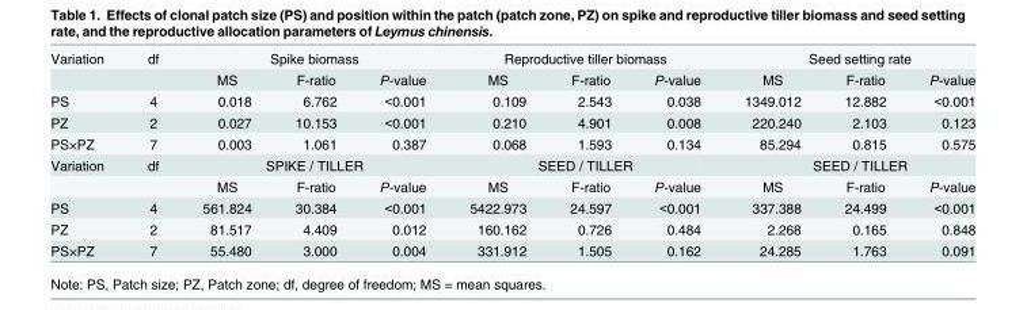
<table><tbody><tr><td rowspan="2">Variation</td><td>df</td><td colspan="3">Spike biomass</td><td colspan="3">Reproductive tiller biomass</td><td colspan="3">Seed setting rate</td></tr><tr><td></td><td>MS</td><td>F-ratio</td><td>P-value</td><td>MS</td><td>F-ratio</td><td>P-value</td><td>MS</td><td>F-ratio</td><td>P-value</td></tr><tr><td>PS</td><td>4</td><td>0.018</td><td>6.762</td><td>&lt;0.001</td><td>0.109</td><td>2.543</td><td>0.038</td><td>1349.012</td><td>12.882</td><td>&lt;0.001</td></tr><tr><td>PZ</td><td>2</td><td>0.027</td><td>10.153</td><td>&lt;0.001</td><td>0.210</td><td>4.901</td><td>0.008</td><td>220.240</td><td>2.103</td><td>0.123</td></tr><tr><td>PS×PZ</td><td>7</td><td>0.003</td><td>1.061</td><td>0.387</td><td>0.068</td><td>1.593</td><td>0.134</td><td>85.294</td><td>0.815</td><td>0.575</td></tr><tr><td rowspan="2">Variation</td><td>df</td><td colspan="3">SPIKE / TILLER</td><td colspan="3">SEED / TILLER</td><td colspan="3">SEED / TILLER</td></tr><tr><td></td><td>MS</td><td>F-ratio</td><td>P-value</td><td>MS</td><td>F-ratio</td><td>P-value</td><td>MS</td><td>F-ratio</td><td>P-value</td></tr><tr><td>PS</td><td>4</td><td>561.824</td><td>30.384</td><td>&lt;0.001</td><td>5422.973</td><td>24.597</td><td>&lt;0.001</td><td>337.388</td><td>24.499</td><td>&lt;0.001</td></tr><tr><td>PZ</td><td>2</td><td>81.517</td><td>4.409</td><td>0.012</td><td>160.162</td><td>0.726</td><td>0.484</td><td>2.268</td><td>0.165</td><td>0.848</td></tr><tr><td>PS×PZ</td><td>7</td><td>55.480</td><td>3.000</td><td>0.004</td><td>331.912</td><td>1.505</td><td>0.162</td><td>24.285</td><td>1.763</td><td>0.091</td></tr></tbody></table>